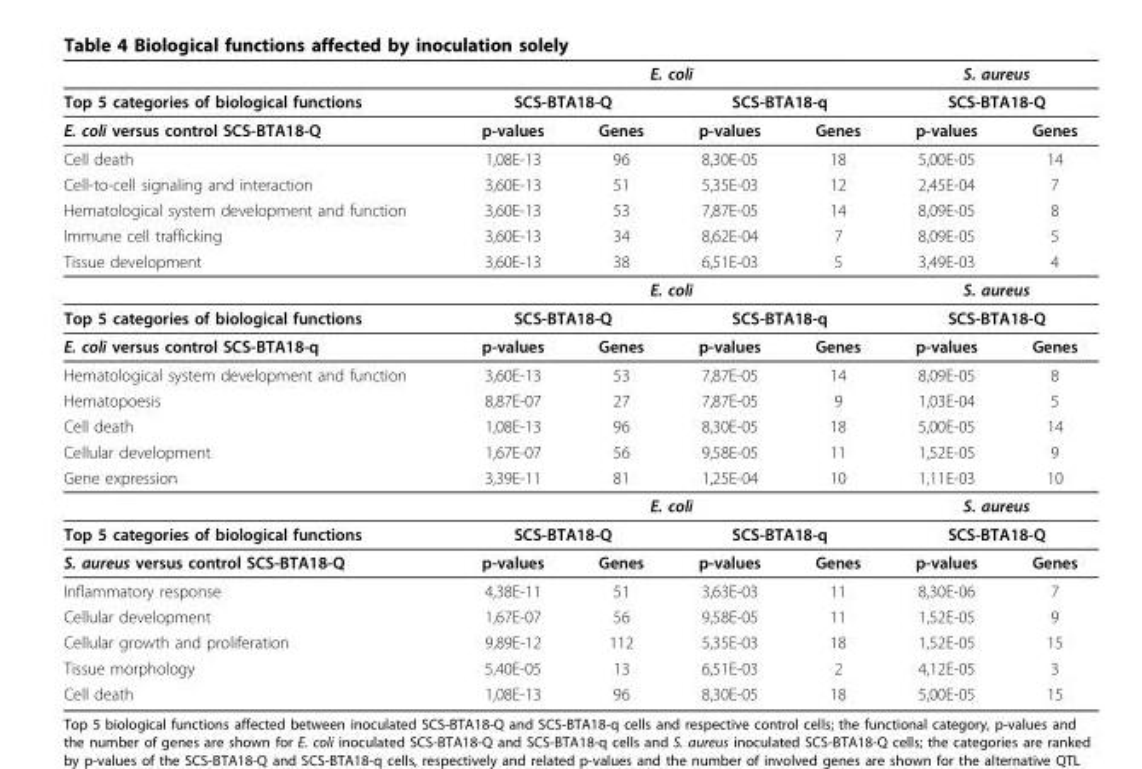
<table><thead><tr><td rowspan="3">Top 5 categories of biological functions E. coli versus control SCS-BTA18-Q</td><td colspan="4">E. coli</td><td rowspan="2" colspan="2">S. aureus SCS-BTA18-Q</td></tr><tr><td colspan="2">SCS-BTA18-Q</td><td colspan="2">SCS-BTA18-q</td></tr><tr><td>p-values</td><td>Genes</td><td>p-values</td><td>Genes</td><td>p-values</td><td>Genes</td></tr></thead><tbody><tr><td>Cell death</td><td>1,08E-13</td><td>96</td><td>8,30E-05</td><td>18</td><td>5,00E-05</td><td>14</td></tr><tr><td>Cell-to-cell signaling and interaction</td><td>3,60E-13</td><td>51</td><td>5,35E-03</td><td>12</td><td>2,45E-04</td><td>7</td></tr><tr><td>Hematological system development and function</td><td>3,60E-13</td><td>53</td><td>7,87E-05</td><td>14</td><td>8,09E-05</td><td>8</td></tr><tr><td>Immune cell trafficking</td><td>3,60E-13</td><td>34</td><td>8,62E-04</td><td>7</td><td>8,09E-05</td><td>5</td></tr><tr><td rowspan="2">Tissue development</td><td>3,60E-13</td><td>38</td><td>6,51E-03</td><td>5</td><td>3,49E-03</td><td>4</td></tr><tr><td colspan="4">E. coli</td><td colspan="2">S. aureus</td></tr><tr><td>Top 5 categories of biological functions</td><td colspan="2">SCS-BTA18-Q</td><td colspan="2">SCS-BTA18-q</td><td colspan="2">SCS-BTA18-Q</td></tr><tr><td>E. coli versus control SCS-BTA18-q</td><td>p-values</td><td>Genes</td><td>p-values</td><td>Genes</td><td>p-values</td><td>Genes</td></tr><tr><td>Hematological system development and function</td><td>3,60E-13</td><td>53</td><td>7,87E-05</td><td>14</td><td>8,09E-05</td><td>8</td></tr><tr><td>Hematopoesis</td><td>8,87E-07</td><td>27</td><td>7,87E-05</td><td>9</td><td>1,03E-04</td><td>5</td></tr><tr><td>Cell death</td><td>1,08E-13</td><td>96</td><td>8,30E-05</td><td>18</td><td>5,00E-05</td><td>14</td></tr><tr><td>Cellular development</td><td>1,67E-07</td><td>56</td><td>9,58E-05</td><td>11</td><td>1,52E-05</td><td>9</td></tr><tr><td rowspan="2">Gene expression</td><td>3,39E-11</td><td>81</td><td>1,25E-04</td><td>10</td><td>1,11E-03</td><td>10</td></tr><tr><td colspan="4">E. coli</td><td colspan="2">S. aureus</td></tr><tr><td>Top 5 categories of biological functions</td><td colspan="2">SCS-BTA18-Q</td><td colspan="2">SCS-BTA18-q</td><td colspan="2">SCS-BTA18-Q</td></tr><tr><td>S. aureus versus control SCS-BTA18-Q</td><td>p-values</td><td>Genes</td><td>p-values</td><td>Genes</td><td>p-values</td><td>Genes</td></tr><tr><td>Inflammatory response</td><td>4,38E-11</td><td>51</td><td>3,63E-03</td><td>11</td><td>8,30E-06</td><td>7</td></tr><tr><td>Cellular development</td><td>1,67E-07</td><td>56</td><td>9,58E-05</td><td>11</td><td>1,52E-05</td><td>9</td></tr><tr><td>Cellular growth and proliferation</td><td>9,89E-12</td><td>112</td><td>5,35E-03</td><td>18</td><td>1,52E-05</td><td>15</td></tr><tr><td>Tissue morphology</td><td>5,40E-05</td><td>13</td><td>6,51E-03</td><td>2</td><td>4,12E-05</td><td>3</td></tr><tr><td>Cell death</td><td>1,08E-13</td><td>96</td><td>8,30E-05</td><td>18</td><td>5,00E-05</td><td>15</td></tr></tbody></table>